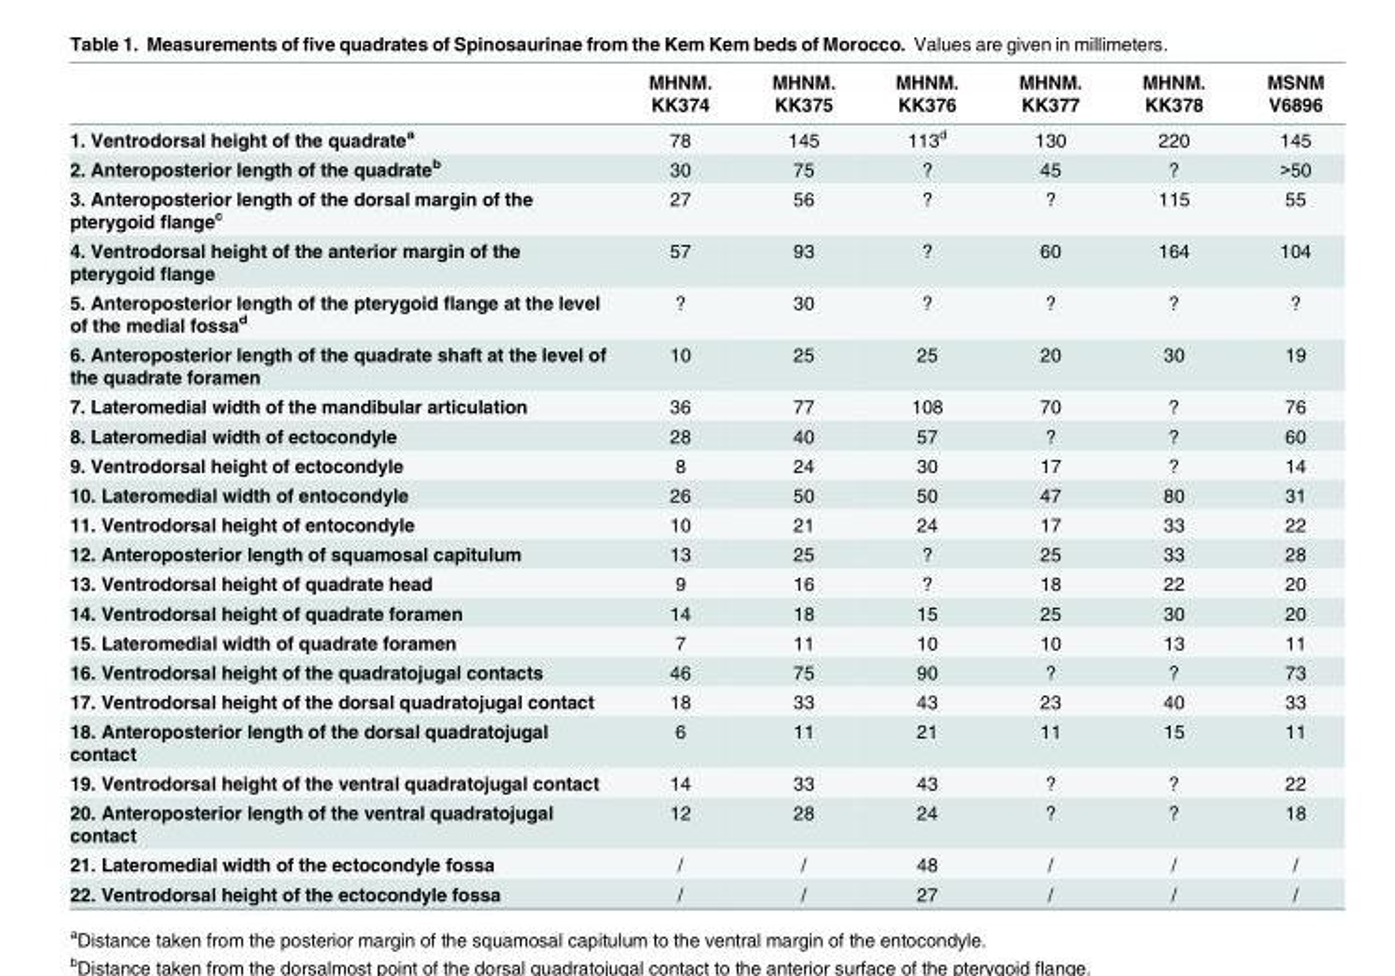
<table><thead><tr><td></td><td>MHNM. KK374</td><td>MHNM. KK375</td><td>MHNM. KK376</td><td>MHNM. KK377</td><td>MHNM. KK378</td><td>MSNM V6896</td></tr></thead><tbody><tr><td>1. Ventrodorsal height of the quadrate<sup>a</sup></td><td>78</td><td>145</td><td>113<sup>d</sup></td><td>130</td><td>220</td><td>145</td></tr><tr><td>2. Anteroposterior length of the quadrate<sup>b</sup></td><td>30</td><td>75</td><td>?</td><td>45</td><td>?</td><td>&gt;50</td></tr><tr><td>3. Anteroposterior length of the dorsal margin of the pterygoid flange<sup>c</sup></td><td>27</td><td>56</td><td>?</td><td>?</td><td>115</td><td>55</td></tr><tr><td>4. Ventrodorsal height of the anterior margin of the pterygoid flange</td><td>57</td><td>93</td><td>?</td><td>60</td><td>164</td><td>104</td></tr><tr><td>5. Anteroposterior length of the pterygoid flange at the level of the medial fossa<sup>d</sup></td><td>?</td><td>30</td><td>?</td><td>?</td><td>?</td><td>?</td></tr><tr><td>6. Anteroposterior length of the quadrate shaft at the level of the quadrate foramen</td><td>10</td><td>25</td><td>25</td><td>20</td><td>30</td><td>19</td></tr><tr><td>7. Lateromedial width of the mandibular articulation</td><td>36</td><td>77</td><td>108</td><td>70</td><td>?</td><td>76</td></tr><tr><td>8. Lateromedial width of ectocondyle</td><td>28</td><td>40</td><td>57</td><td>?</td><td>?</td><td>60</td></tr><tr><td>9. Ventrodorsal height of ectocondyle</td><td>8</td><td>24</td><td>30</td><td>17</td><td>?</td><td>14</td></tr><tr><td>10. Lateromedial width of entocondyle</td><td>26</td><td>50</td><td>50</td><td>47</td><td>80</td><td>31</td></tr><tr><td>11. Ventrodorsal height of entocondyle</td><td>10</td><td>21</td><td>24</td><td>17</td><td>33</td><td>22</td></tr><tr><td>12. Anteroposterior length of squamosal capitulum</td><td>13</td><td>25</td><td>?</td><td>25</td><td>33</td><td>28</td></tr><tr><td>13. Ventrodorsal height of quadrate head</td><td>9</td><td>16</td><td>?</td><td>18</td><td>22</td><td>20</td></tr><tr><td>14. Ventrodorsal height of quadrate foramen</td><td>14</td><td>18</td><td>15</td><td>25</td><td>30</td><td>20</td></tr><tr><td>15. Lateromedial width of quadrate foramen</td><td>7</td><td>11</td><td>10</td><td>10</td><td>13</td><td>11</td></tr><tr><td>16. Ventrodorsal height of the quadratojugal contacts</td><td>46</td><td>75</td><td>90</td><td>?</td><td>?</td><td>73</td></tr><tr><td>17. Ventrodorsal height of the dorsal quadratojugal contact</td><td>18</td><td>33</td><td>43</td><td>23</td><td>40</td><td>33</td></tr><tr><td>18. Anteroposterior length of the dorsal quadratojugal contact</td><td>6</td><td>11</td><td>21</td><td>11</td><td>15</td><td>11</td></tr><tr><td>19. Ventrodorsal height of the ventral quadratojugal contact</td><td>14</td><td>33</td><td>43</td><td>?</td><td>?</td><td>22</td></tr><tr><td>20. Anteroposterior length of the ventral quadratojugal contact</td><td>12</td><td>28</td><td>24</td><td>?</td><td>?</td><td>18</td></tr><tr><td>21. Lateromedial width of the ectocondyle fossa</td><td>/</td><td>/</td><td>48</td><td>/</td><td>/</td><td>/</td></tr><tr><td>22. Ventrodorsal height of the ectocondyle fossa</td><td>/</td><td>/</td><td>27</td><td>/</td><td>/</td><td>/</td></tr></tbody></table>